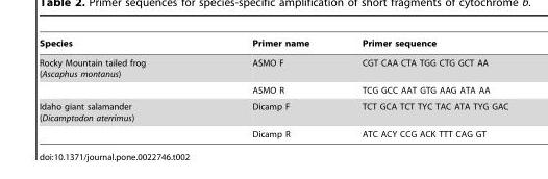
<table><thead><tr><td>Species</td><td>Primer name</td><td>Primer sequence</td></tr></thead><tbody><tr><td rowspan="2">Rocky Mountain tailed frog (Ascaphus montanus)</td><td>ASMO F</td><td>CGT CAA CTA TGG CTG GCT AA</td></tr><tr><td>ASMO R</td><td>TCG GCC AAT GTG AAG ATA AA</td></tr><tr><td rowspan="2">Idaho giant salamander (Dicamptodon aterrimus)</td><td>Dicamp F</td><td>TCT GCA TCT TYC TAC ATA TYG GAC</td></tr><tr><td>Dicamp R</td><td>ATC ACY CCG ACK TTT CAG GT</td></tr></tbody></table>